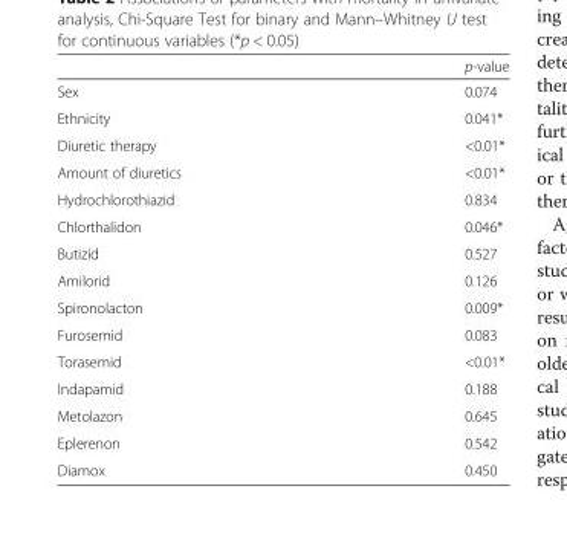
<table><thead><tr><td></td><td>p-value</td></tr></thead><tbody><tr><td>Sex</td><td>0.074</td></tr><tr><td>Ethnicity</td><td>0.041*</td></tr><tr><td>Diuretic therapy</td><td>&lt;0.01*</td></tr><tr><td>Amount of diuretics</td><td>&lt;0.01*</td></tr><tr><td>Hydrochlorothiazid</td><td>0.834</td></tr><tr><td>Chlorthalidon</td><td>0.046*</td></tr><tr><td>Butizid</td><td>0.527</td></tr><tr><td>Amilorid</td><td>0.126</td></tr><tr><td>Spironolacton</td><td>0.009*</td></tr><tr><td>Furosemid</td><td>0.083</td></tr><tr><td>Torasemid</td><td>&lt;0.01*</td></tr><tr><td>Indapamid</td><td>0.188</td></tr><tr><td>Metolazon</td><td>0.645</td></tr><tr><td>Eplerenon</td><td>0.542</td></tr><tr><td>Diamox</td><td>0.450</td></tr></tbody></table>